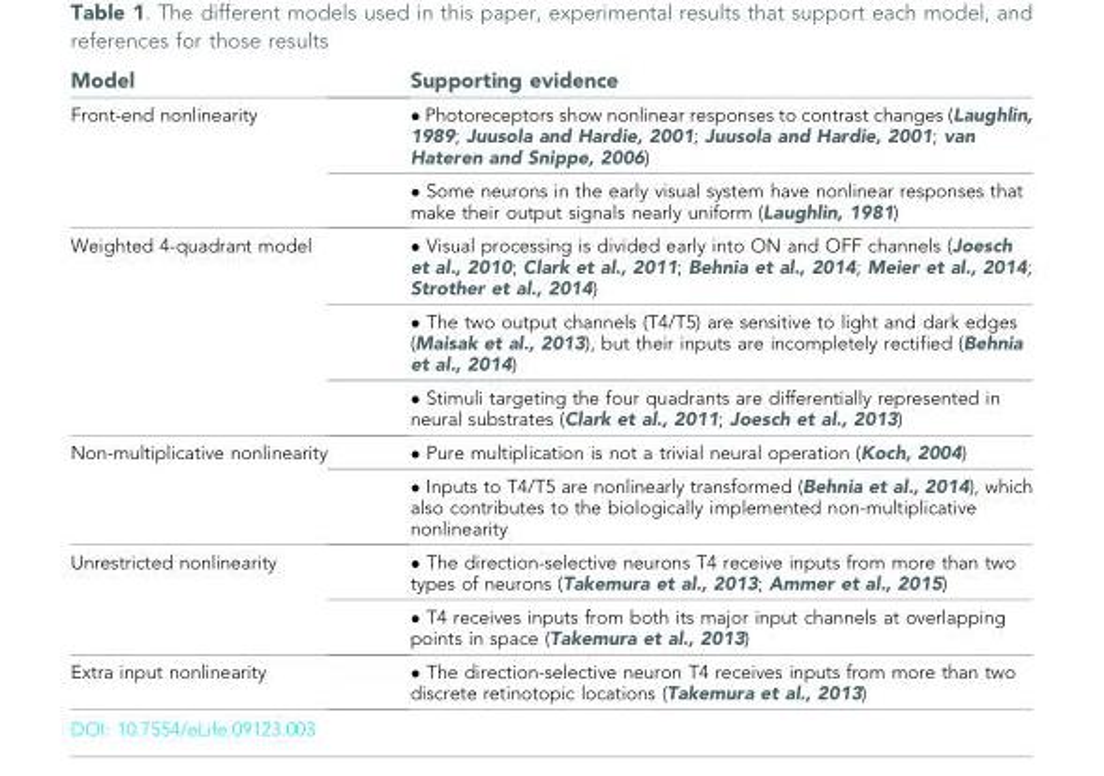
<table><thead><tr><td>Model</td><td>Supporting evidence</td></tr></thead><tbody><tr><td rowspan="2">Front-end nonlinearity</td><td>• Photoreceptors show nonlinear responses to contrast changes (Laughlin, 1989; Juusola and Hardie, 2001; Juusola and Hardie, 2001; van Hateren and Snippe, 2006)</td></tr><tr><td>• Some neurons in the early visual system have nonlinear responses that make their output signals nearly uniform (Laughlin, 1981)</td></tr><tr><td rowspan="3">Weighted 4-quadrant model</td><td>• Visual processing is divided early into ON and OFF channels (Joesch et al., 2010; Clark et al., 2011; Behnia et al., 2014; Meier et al., 2014; Strother et al., 2014)</td></tr><tr><td>• The two output channels (T4/T5) are sensitive to light and dark edges (Maisak et al., 2013), but their inputs are incompletely rectified (Behnia et al., 2014)</td></tr><tr><td>• Stimuli targeting the four quadrants are differentially represented in neural substrates (Clark et al., 2011; Joesch et al., 2013)</td></tr><tr><td rowspan="2">Non-multiplicative nonlinearity</td><td>• Pure multiplication is not a trivial neural operation (Koch, 2004)</td></tr><tr><td>• Inputs to T4/T5 are nonlinearly transformed (Behnia et al., 2014), which also contributes to the biologically implemented non-multiplicative nonlinearity</td></tr><tr><td rowspan="2">Unrestricted nonlinearity</td><td>• The direction-selective neurons T4 receive inputs from more than two types of neurons (Takemura et al., 2013; Ammer et al., 2015)</td></tr><tr><td>• T4 receives inputs from both its major input channels at overlapping points in space (Takemura et al., 2013)</td></tr><tr><td>Extra input nonlinearity</td><td>• The direction-selective neuron T4 receives inputs from more than two discrete retinotopic locations (Takemura et al., 2013)</td></tr></tbody></table>